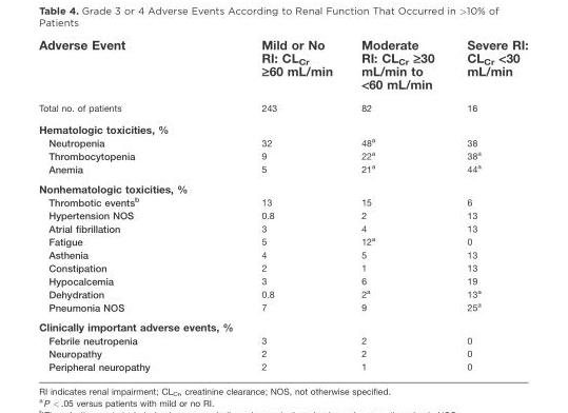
<table><thead><tr><td>Adverse Event</td><td>Mild or No RI: CLCr ‡60 mL/min</td><td>Moderate RI: CLCr ‡30 mL/min to &lt;60 mL/min</td><td>Severe RI: CL<sub>Cr</sub> &lt;30 mL/min</td></tr></thead><tbody><tr><td>Total no. of patients</td><td>243</td><td>82</td><td>16</td></tr><tr><td colspan="4">Hematologic toxicities, %</td></tr><tr><td>Neutropenia</td><td>32</td><td>48<sup>a</sup></td><td>38</td></tr><tr><td>Thrombocytopenia</td><td>9</td><td>22<sup>a</sup></td><td>38<sup>a</sup></td></tr><tr><td>Anemia</td><td>5</td><td>21<sup>a</sup></td><td>44<sup>a</sup></td></tr><tr><td colspan="4">Nonhematologic toxicities, %</td></tr><tr><td>Thrombotic events<sup>b</sup></td><td>13</td><td>15</td><td>6</td></tr><tr><td>Hypertension NOS</td><td>0.8</td><td>2</td><td>13</td></tr><tr><td>Atrial fibrillation</td><td>3</td><td>4</td><td>13</td></tr><tr><td>Fatigue</td><td>5</td><td>12<sup>a</sup></td><td>0</td></tr><tr><td>Asthenia</td><td>4</td><td>5</td><td>13</td></tr><tr><td>Constipation</td><td>2</td><td>1</td><td>13</td></tr><tr><td>Hypocalcemia</td><td>3</td><td>6</td><td>19</td></tr><tr><td>Dehydration</td><td>0.8</td><td>2<sup>a</sup></td><td>13<sup>a</sup></td></tr><tr><td>Pneumonia NOS</td><td>7</td><td>9</td><td>25<sup>a</sup></td></tr><tr><td colspan="4">Clinically important adverse events, %</td></tr><tr><td>Febrile neutropenia</td><td>3</td><td>2</td><td>0</td></tr><tr><td>Neuropathy</td><td>2</td><td>2</td><td>0</td></tr><tr><td>Peripheral neuropathy</td><td>2</td><td>1</td><td>0</td></tr></tbody></table>